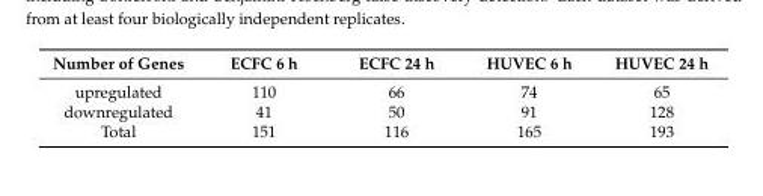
<table><thead><tr><td>Number of Genes</td><td>ECFC 6 h</td><td>ECFC 24 h</td><td>HUVEC 6 h</td><td>HUVEC 24 h</td></tr></thead><tbody><tr><td>upregulated</td><td>110</td><td>66</td><td>74</td><td>65</td></tr><tr><td>downregulated</td><td>41</td><td>50</td><td>91</td><td>128</td></tr><tr><td>Total</td><td>151</td><td>116</td><td>165</td><td>193</td></tr></tbody></table>